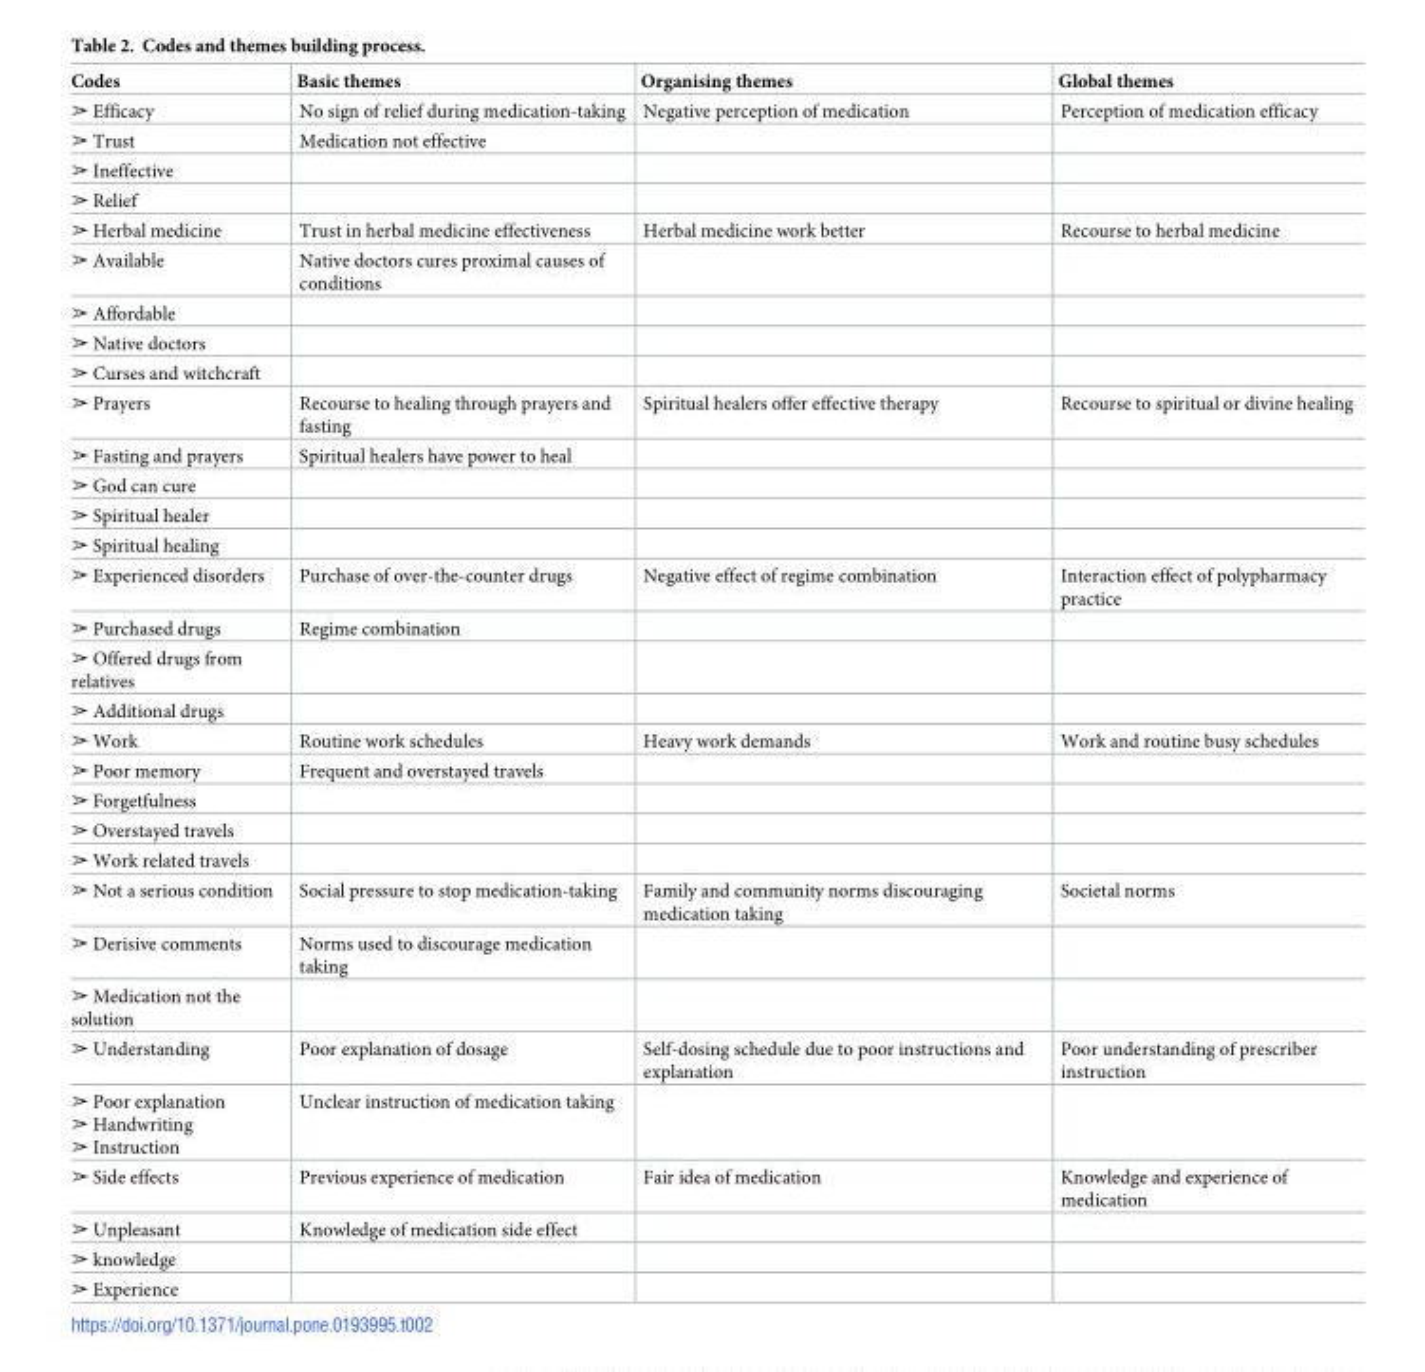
<table><thead><tr><td>Codes</td><td>Basic themes</td><td>Organising themes</td><td>Global themes</td></tr></thead><tbody><tr><td>➢ Efficacy</td><td>No sign of relief during medication-taking</td><td>Negative perception of medication</td><td>Perception of medication efficacy</td></tr><tr><td>➢ Trust</td><td>Medication not effective</td><td></td><td></td></tr><tr><td colspan="4">➢ Ineffective</td></tr><tr><td colspan="4">➢ Relief</td></tr><tr><td>➢ Herbal medicine</td><td>Trust in herbal medicine effectiveness</td><td>Herbal medicine work better</td><td>Recourse to herbal medicine</td></tr><tr><td>➢ Available</td><td>Native doctors cures proximal causes of conditions</td><td></td><td></td></tr><tr><td colspan="4">➢ Affordable</td></tr><tr><td colspan="4">➢ Native doctors</td></tr><tr><td colspan="4">➢ Curses and witchcraft</td></tr><tr><td>➢ Prayers</td><td>Recourse to healing through prayers and fasting</td><td>Spiritual healers offer effective therapy</td><td>Recourse to spiritual or divine healing</td></tr><tr><td>➢ Fasting and prayers</td><td>Spiritual healers have power to heal</td><td></td><td></td></tr><tr><td colspan="4">➢ God can cure</td></tr><tr><td colspan="4">➢ Spiritual healer</td></tr><tr><td colspan="4">➢ Spiritual healing</td></tr><tr><td>➢ Experienced disorders</td><td>Purchase of over-the-counter drugs</td><td>Negative effect of regime combination</td><td>Interaction effect of polypharmacy practice</td></tr><tr><td>➢ Purchased drugs</td><td>Regime combination</td><td></td><td></td></tr><tr><td colspan="4">➢ Offered drugs from relatives</td></tr><tr><td colspan="4">➢ Additional drugs</td></tr><tr><td>➢ Work</td><td>Routine work schedules</td><td>Heavy work demands</td><td>Work and routine busy schedules</td></tr><tr><td>➢ Poor memory</td><td>Frequent and overstayed travels</td><td></td><td></td></tr><tr><td colspan="4">➢ Forgetfulness</td></tr><tr><td colspan="4">➢ Overstayed travels</td></tr><tr><td colspan="4">➢ Work related travels</td></tr><tr><td>➢ Not a serious condition</td><td>Social pressure to stop medication-taking</td><td>Family and community norms discouraging medication taking</td><td>Societal norms</td></tr><tr><td>➢ Derisive comments</td><td>Norms used to discourage medication taking</td><td></td><td></td></tr><tr><td colspan="4">➢ Medication not the solution</td></tr><tr><td>➢ Understanding</td><td>Poor explanation of dosage</td><td>Self-dosing schedule due to poor instructions and explanation</td><td>Poor understanding of prescriber instruction</td></tr><tr><td>➢ Poor explanation ➢ Handwriting ➢ Instruction</td><td>Unclear instruction of medication taking</td><td></td><td></td></tr><tr><td>➢ Side effects</td><td>Previous experience of medication</td><td>Fair idea of medication</td><td>Knowledge and experience of medication</td></tr><tr><td>➢ Unpleasant</td><td>Knowledge of medication side effect</td><td></td><td></td></tr><tr><td colspan="4">➢ knowledge</td></tr><tr><td>➢ Experience</td><td></td><td></td><td></td></tr></tbody></table>